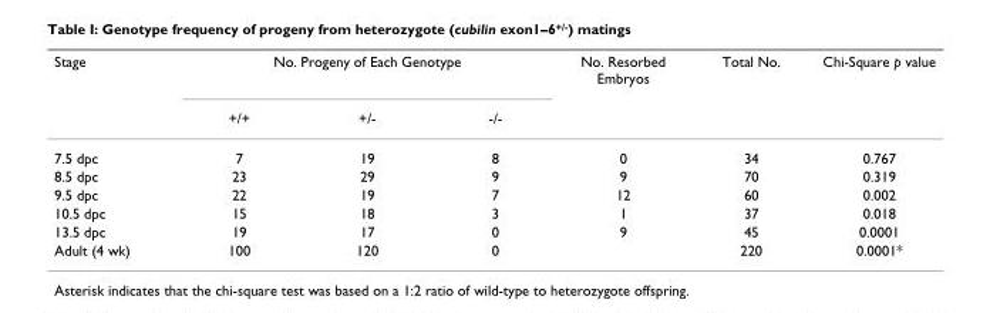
<table><thead><tr><td rowspan="2">Stage</td><td colspan="3">No. Progeny of Each Genotype</td><td rowspan="2">No. Resorbed Embryos</td><td rowspan="2">Total No.</td><td rowspan="2">Chi-Square p value</td></tr><tr><td>+/+</td><td>+/-</td><td>-/-</td></tr></thead><tbody><tr><td>7.5 dpc</td><td>7</td><td>19</td><td>8</td><td>0</td><td>34</td><td>0.767</td></tr><tr><td>8.5 dpc</td><td>23</td><td>29</td><td>9</td><td>9</td><td>70</td><td>0.319</td></tr><tr><td>9.5 dpc</td><td>22</td><td>19</td><td>7</td><td>12</td><td>60</td><td>0.002</td></tr><tr><td>10.5 dpc</td><td>15</td><td>18</td><td>3</td><td>1</td><td>37</td><td>0.018</td></tr><tr><td>13.5 dpc</td><td>19</td><td>17</td><td>0</td><td>9</td><td>45</td><td>0.0001</td></tr><tr><td>Adult (4 wk)</td><td>100</td><td>120</td><td>0</td><td></td><td>220</td><td>0.0001*</td></tr></tbody></table>